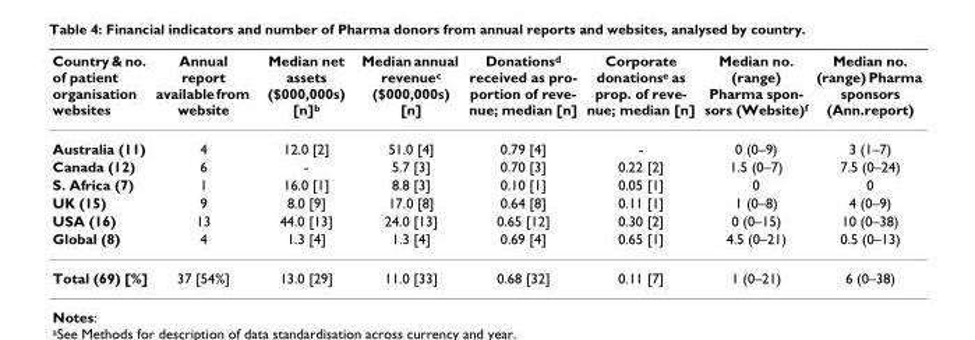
<table><thead><tr><td>Country &amp; no. of patient organisation websites</td><td>Annual report available from website</td><td>Median net assets ($000,000s) [n]b</td><td>Median annual revenuec ($000,000s) [n]</td><td>Donationsd received as pro- portion of reve- nue; median [n]</td><td>Corporate donationse as prop. of reve- nue; median [n]</td><td>Median no. (range) Pharma spon- sors (Website)f</td><td>Median no. (range) Pharma sponsors (Ann.report)</td></tr></thead><tbody><tr><td>Australia (11)</td><td>4</td><td>12.0 [2]</td><td>51.0 [4]</td><td>0.79 [4]</td><td>-</td><td>0 (0–9)</td><td>3 (1–7)</td></tr><tr><td>Canada (12)</td><td>6</td><td>-</td><td>5.7 [3]</td><td>0.70 [3]</td><td>0.22 [2]</td><td>1.5 (0–7)</td><td>7.5 (0–24)</td></tr><tr><td>S. Africa (7)</td><td>1</td><td>16.0 [1]</td><td>8.8 [3]</td><td>0.10 [1]</td><td>0.05 [1]</td><td>0</td><td>0</td></tr><tr><td>UK (15)</td><td>9</td><td>8.0 [9]</td><td>17.0 [8]</td><td>0.64 [8]</td><td>0.11 [1]</td><td>1 (0–8)</td><td>4 (0–9)</td></tr><tr><td>USA (16)</td><td>13</td><td>44.0 [13]</td><td>24.0 [13]</td><td>0.65 [12]</td><td>0.30 [2]</td><td>0 (0–15)</td><td>10 (0–38)</td></tr><tr><td>Global (8)</td><td>4</td><td>1.3 [4]</td><td>1.3 [4]</td><td>0.69 [4]</td><td>0.65 [1]</td><td>4.5 (0–21)</td><td>0.5 (0–13)</td></tr><tr><td>Total (69) [%]</td><td>37 [54%]</td><td>13.0 [29]</td><td>11.0 [33]</td><td>0.68 [32]</td><td>0.11 [7]</td><td>1 (0–21)</td><td>6 (0–38)</td></tr></tbody></table>